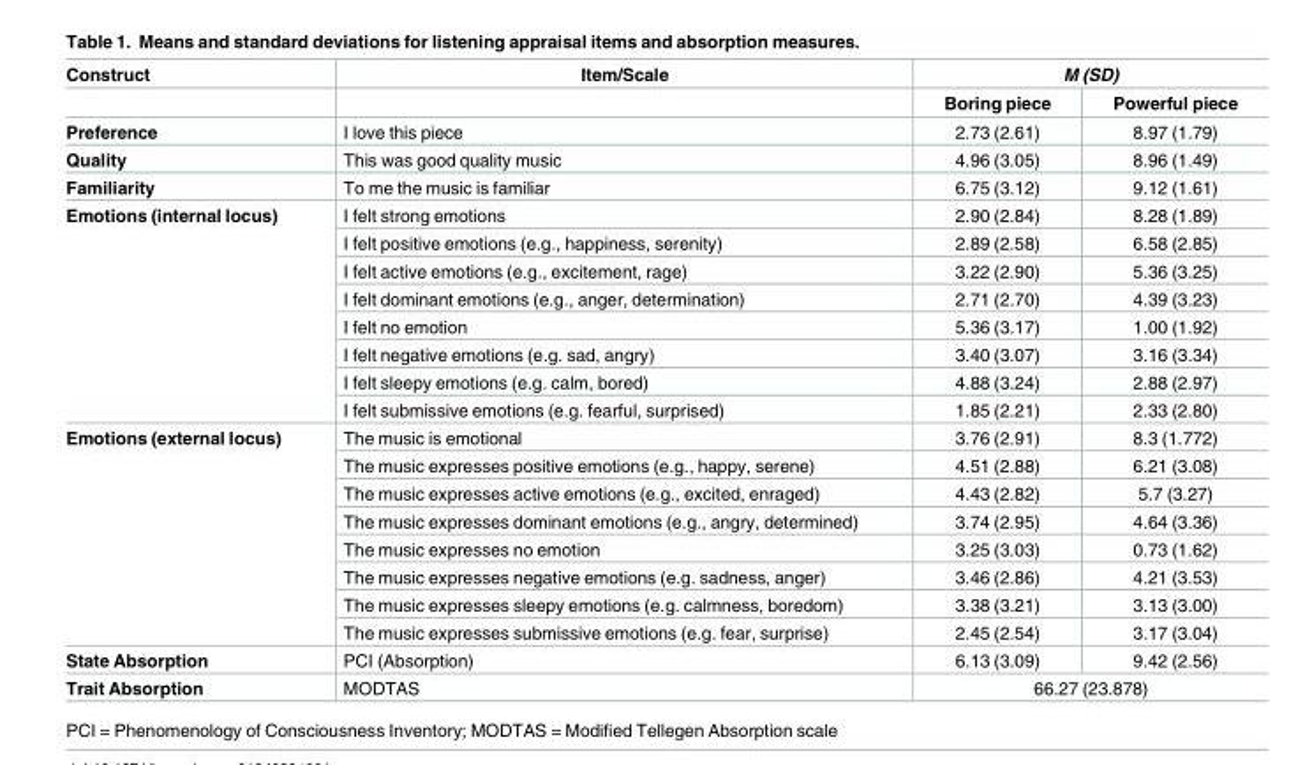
<table><thead><tr><td rowspan="2">Construct</td><td rowspan="2">Item/Scale</td><td colspan="2">M (SD)</td></tr><tr><td>Boring piece</td><td>Powerful piece</td></tr></thead><tbody><tr><td>Preference</td><td>I love this piece</td><td>2.73 (2.61)</td><td>8.97 (1.79)</td></tr><tr><td>Quality</td><td>This was good quality music</td><td>4.96 (3.05)</td><td>8.96 (1.49)</td></tr><tr><td>Familiarity</td><td>To me the music is familiar</td><td>6.75 (3.12)</td><td>9.12 (1.61)</td></tr><tr><td rowspan="8">Emotions (internal locus)</td><td>I felt strong emotions</td><td>2.90 (2.84)</td><td>8.28 (1.89)</td></tr><tr><td>I felt positive emotions (e.g., happiness, serenity)</td><td>2.89 (2.58)</td><td>6.58 (2.85)</td></tr><tr><td>I felt active emotions (e.g., excitement, rage)</td><td>3.22 (2.90)</td><td>5.36 (3.25)</td></tr><tr><td>I felt dominant emotions (e.g., anger, determination)</td><td>2.71 (2.70)</td><td>4.39 (3.23)</td></tr><tr><td>I felt no emotion</td><td>5.36 (3.17)</td><td>1.00 (1.92)</td></tr><tr><td>I felt negative emotions (e.g. sad, angry)</td><td>3.40 (3.07)</td><td>3.16 (3.34)</td></tr><tr><td>I felt sleepy emotions (e.g. calm, bored)</td><td>4.88 (3.24)</td><td>2.88 (2.97)</td></tr><tr><td>I felt submissive emotions (e.g. fearful, surprised)</td><td>1.85 (2.21)</td><td>2.33 (2.80)</td></tr><tr><td rowspan="8">Emotions (external locus)</td><td>The music is emotional</td><td>3.76 (2.91)</td><td>8.3 (1.772)</td></tr><tr><td>The music expresses positive emotions (e.g., happy, serene)</td><td>4.51 (2.88)</td><td>6.21 (3.08)</td></tr><tr><td>The music expresses active emotions (e.g., excited, enraged)</td><td>4.43 (2.82)</td><td>5.7 (3.27)</td></tr><tr><td>The music expresses dominant emotions (e.g., angry, determined)</td><td>3.74 (2.95)</td><td>4.64 (3.36)</td></tr><tr><td>The music expresses no emotion</td><td>3.25 (3.03)</td><td>0.73 (1.62)</td></tr><tr><td>The music expresses negative emotions (e.g. sadness, anger)</td><td>3.46 (2.86)</td><td>4.21 (3.53)</td></tr><tr><td>The music expresses sleepy emotions (e.g. calmness, boredom)</td><td>3.38 (3.21)</td><td>3.13 (3.00)</td></tr><tr><td>The music expresses submissive emotions (e.g. fear, surprise)</td><td>2.45 (2.54)</td><td>3.17 (3.04)</td></tr><tr><td>State Absorption</td><td>PCI (Absorption)</td><td>6.13 (3.09)</td><td>9.42 (2.56)</td></tr><tr><td>Trait Absorption</td><td>MODTAS</td><td colspan="2">66.27 (23.878)</td></tr></tbody></table>